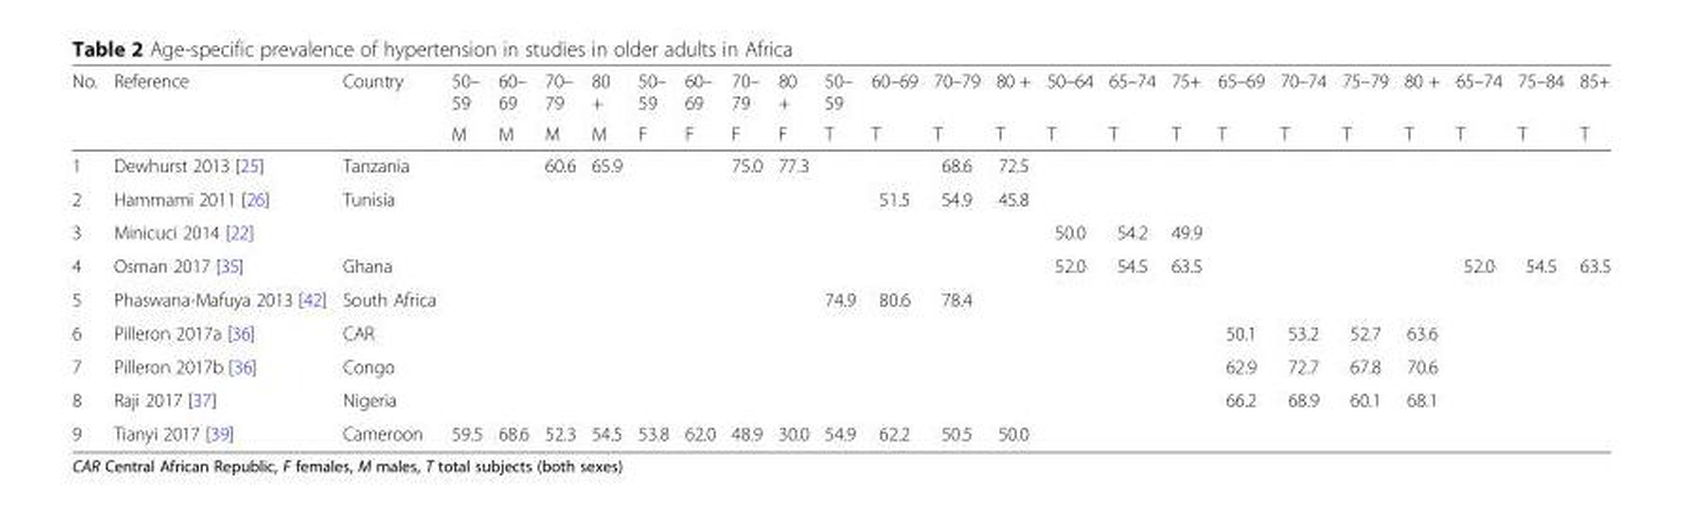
<table><thead><tr><td rowspan="2">No.</td><td rowspan="2">Reference</td><td rowspan="2">Country</td><td rowspan="2">50– 59 M</td><td rowspan="2">60– 69 M</td><td rowspan="2">70– 79 M</td><td rowspan="2">80 + M</td><td rowspan="2">50– 59 F</td><td rowspan="2">60– 69 F</td><td rowspan="2">70– 79 F</td><td rowspan="2">80 + F</td><td rowspan="2">50– 59 T</td><td rowspan="2">60–69 T</td><td rowspan="2">70–79 T</td><td rowspan="2">80 + T</td><td rowspan="2">50–64 T</td><td rowspan="2">65–74 T</td><td rowspan="2">75+ T</td><td rowspan="2">65–69 T</td><td rowspan="2">70–74 T</td><td rowspan="2">75–79 T</td><td rowspan="2">80 + T</td><td rowspan="2">65–74 T</td><td rowspan="2">75–84 T</td><td rowspan="2">85+ T</td></tr><tr></tr></thead><tbody><tr><td>1</td><td>Dewhurst 2013 [25]</td><td>Tanzania</td><td></td><td></td><td>60.6</td><td>65.9</td><td></td><td></td><td>75.0</td><td>77.3</td><td></td><td></td><td>68.6</td><td>72.5</td><td></td><td></td><td></td><td></td><td></td><td></td><td></td><td></td><td></td><td></td></tr><tr><td>2</td><td>Hammami 2011 [26]</td><td>Tunisia</td><td></td><td></td><td></td><td></td><td></td><td></td><td></td><td></td><td></td><td>51.5</td><td>54.9</td><td>45.8</td><td></td><td></td><td></td><td></td><td></td><td></td><td></td><td></td><td></td><td></td></tr><tr><td>3</td><td>Minicuci 2014 [22]</td><td></td><td></td><td></td><td></td><td></td><td></td><td></td><td></td><td></td><td></td><td></td><td></td><td></td><td>50.0</td><td>54.2</td><td>49.9</td><td></td><td></td><td></td><td></td><td></td><td></td><td></td></tr><tr><td>4</td><td>Osman 2017 [35]</td><td>Ghana</td><td></td><td></td><td></td><td></td><td></td><td></td><td></td><td></td><td></td><td></td><td></td><td></td><td>52.0</td><td>54.5</td><td>63.5</td><td></td><td></td><td></td><td></td><td>52.0</td><td>54.5</td><td>63.5</td></tr><tr><td>5</td><td>Phaswana-Mafuya 2013 [42]</td><td>South Africa</td><td></td><td></td><td></td><td></td><td></td><td></td><td></td><td></td><td>74.9</td><td>80.6</td><td>78.4</td><td></td><td></td><td></td><td></td><td></td><td></td><td></td><td></td><td></td><td></td><td></td></tr><tr><td>6</td><td>Pilleron 2017a [36]</td><td>CAR</td><td></td><td></td><td></td><td></td><td></td><td></td><td></td><td></td><td></td><td></td><td></td><td></td><td></td><td></td><td></td><td>50.1</td><td>53.2</td><td>52.7</td><td>63.6</td><td></td><td></td><td></td></tr><tr><td>7</td><td>Pilleron 2017b [36]</td><td>Congo</td><td></td><td></td><td></td><td></td><td></td><td></td><td></td><td></td><td></td><td></td><td></td><td></td><td></td><td></td><td></td><td>62.9</td><td>72.7</td><td>67.8</td><td>70.6</td><td></td><td></td><td></td></tr><tr><td>8</td><td>Raji 2017 [37]</td><td>Nigeria</td><td></td><td></td><td></td><td></td><td></td><td></td><td></td><td></td><td></td><td></td><td></td><td></td><td></td><td></td><td></td><td>66.2</td><td>68.9</td><td>60.1</td><td>68.1</td><td></td><td></td><td></td></tr><tr><td>9</td><td>Tianyi 2017 [39]</td><td>Cameroon</td><td>59.5</td><td>68.6</td><td>52.3</td><td>54.5</td><td>53.8</td><td>62.0</td><td>48.9</td><td>30.0</td><td>54.9</td><td>62.2</td><td>50.5</td><td>50.0</td><td></td><td></td><td></td><td></td><td></td><td></td><td></td><td></td><td></td><td></td></tr></tbody></table>